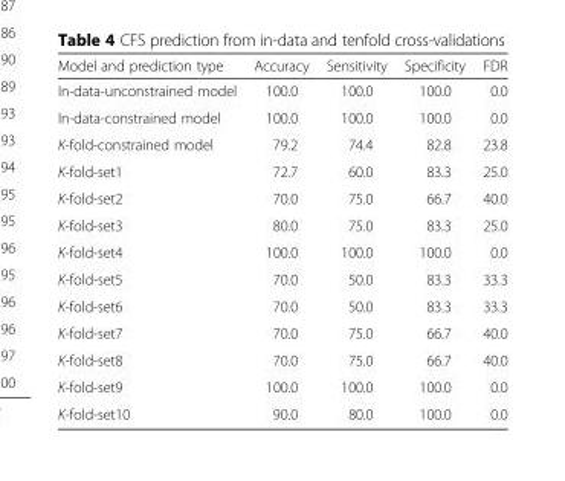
<table><thead><tr><td>Model and prediction type</td><td>Accuracy</td><td>Sensitivity</td><td>Specificity</td><td>FDR</td></tr></thead><tbody><tr><td>In-data-unconstrained model</td><td>100.0</td><td>100.0</td><td>100.0</td><td>0.0</td></tr><tr><td>In-data-constrained model</td><td>100.0</td><td>100.0</td><td>100.0</td><td>0.0</td></tr><tr><td>K-fold-constrained model</td><td>79.2</td><td>74.4</td><td>82.8</td><td>23.8</td></tr><tr><td>K-fold-set1</td><td>72.7</td><td>60.0</td><td>83.3</td><td>25.0</td></tr><tr><td>K-fold-set2</td><td>70.0</td><td>75.0</td><td>66.7</td><td>40.0</td></tr><tr><td>K-fold-set3</td><td>80.0</td><td>75.0</td><td>83.3</td><td>25.0</td></tr><tr><td>K-fold-set4</td><td>100.0</td><td>100.0</td><td>100.0</td><td>0.0</td></tr><tr><td>K-fold-set5</td><td>70.0</td><td>50.0</td><td>83.3</td><td>33.3</td></tr><tr><td>K-fold-set6</td><td>70.0</td><td>50.0</td><td>83.3</td><td>33.3</td></tr><tr><td>K-fold-set7</td><td>70.0</td><td>75.0</td><td>66.7</td><td>40.0</td></tr><tr><td>K-fold-set8</td><td>70.0</td><td>75.0</td><td>66.7</td><td>40.0</td></tr><tr><td>K-fold-set9</td><td>100.0</td><td>100.0</td><td>100.0</td><td>0.0</td></tr><tr><td>K-fold-set10</td><td>90.0</td><td>80.0</td><td>100.0</td><td>0.0</td></tr></tbody></table>